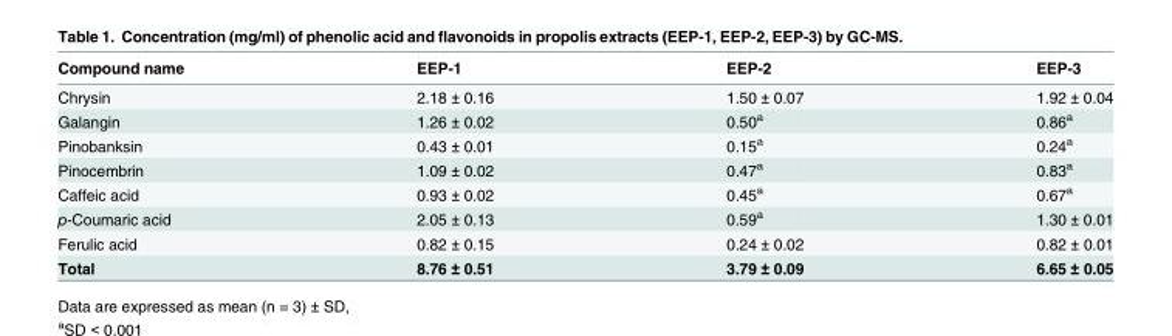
<table><thead><tr><td>Compound name</td><td>EEP-1</td><td>EEP-2</td><td>EEP-3</td></tr></thead><tbody><tr><td>Chrysin</td><td>2.18 ± 0.16</td><td>1.50 ± 0.07</td><td>1.92 ± 0.04</td></tr><tr><td>Galangin</td><td>1.26 ± 0.02</td><td>0.50<sup>a</sup></td><td>0.86<sup>a</sup></td></tr><tr><td>Pinobanksin</td><td>0.43 ± 0.01</td><td>0.15<sup>a</sup></td><td>0.24<sup>a</sup></td></tr><tr><td>Pinocembrin</td><td>1.09 ± 0.02</td><td>0.47<sup>a</sup></td><td>0.83<sup>a</sup></td></tr><tr><td>Caffeic acid</td><td>0.93 ± 0.02</td><td>0.45<sup>a</sup></td><td>0.67<sup>a</sup></td></tr><tr><td>p-Coumaric acid</td><td>2.05 ± 0.13</td><td>0.59<sup>a</sup></td><td>1.30 ± 0.01</td></tr><tr><td>Ferulic acid</td><td>0.82 ± 0.15</td><td>0.24 ± 0.02</td><td>0.82 ± 0.01</td></tr><tr><td>Total</td><td>8.76 ± 0.51</td><td>3.79 ± 0.09</td><td>6.65 ± 0.05</td></tr></tbody></table>